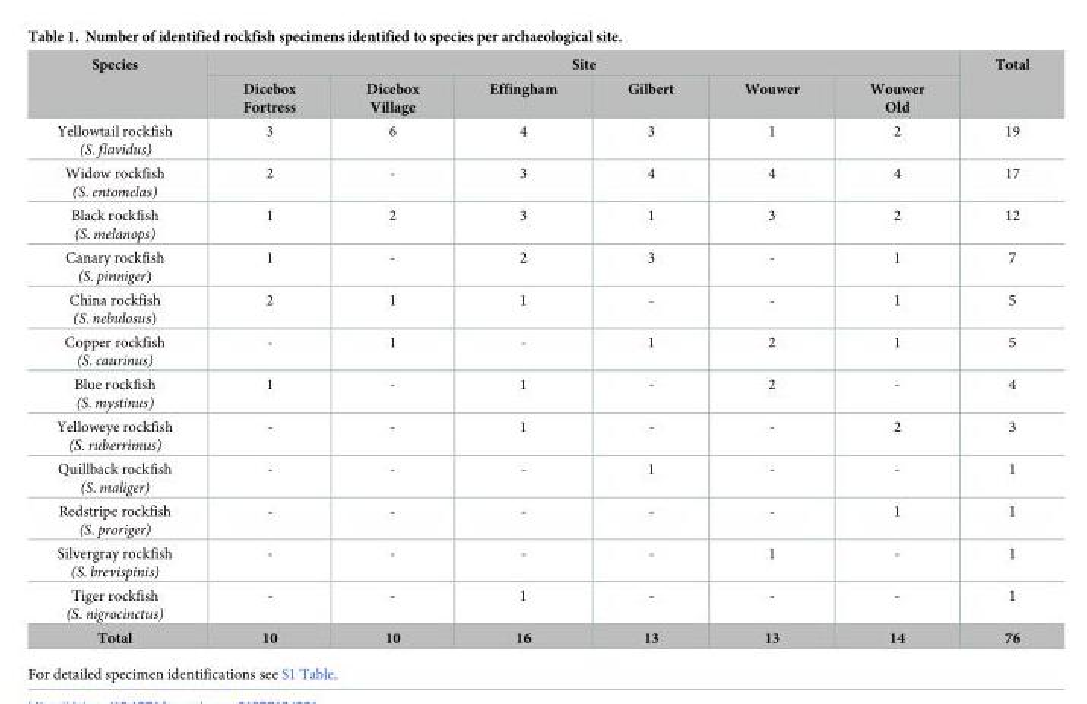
<table><thead><tr><td rowspan="2">Species</td><td colspan="6">Site</td><td rowspan="2">Total</td></tr><tr><td>Dicebox Fortress</td><td>Dicebox Village</td><td>Effingham</td><td>Gilbert</td><td>Wouwer</td><td>Wouwer Old</td></tr></thead><tbody><tr><td>Yellowtail rockfish (S. flavidus)</td><td>3</td><td>6</td><td>4</td><td>3</td><td>1</td><td>2</td><td>19</td></tr><tr><td>Widow rockfish (S. entomelas)</td><td>2</td><td>-</td><td>3</td><td>4</td><td>4</td><td>4</td><td>17</td></tr><tr><td>Black rockfish (S. melanops)</td><td>1</td><td>2</td><td>3</td><td>1</td><td>3</td><td>2</td><td>12</td></tr><tr><td>Canary rockfish (S. pinniger)</td><td>1</td><td>-</td><td>2</td><td>3</td><td>-</td><td>1</td><td>7</td></tr><tr><td>China rockfish (S. nebulosus)</td><td>2</td><td>1</td><td>1</td><td>-</td><td>-</td><td>1</td><td>5</td></tr><tr><td>Copper rockfish (S. caurinus)</td><td>-</td><td>1</td><td>-</td><td>1</td><td>2</td><td>1</td><td>5</td></tr><tr><td>Blue rockfish (S. mystinus)</td><td>1</td><td>-</td><td>1</td><td>-</td><td>2</td><td>-</td><td>4</td></tr><tr><td>Yelloweye rockfish (S. ruberrimus)</td><td>-</td><td>-</td><td>1</td><td>-</td><td>-</td><td>2</td><td>3</td></tr><tr><td>Quillback rockfish (S. maliger)</td><td>-</td><td>-</td><td>-</td><td>1</td><td>-</td><td>-</td><td>1</td></tr><tr><td>Redstripe rockfish (S. proriger)</td><td>-</td><td>-</td><td>-</td><td>-</td><td>-</td><td>1</td><td>1</td></tr><tr><td>Silvergray rockfish (S. brevispinis)</td><td>-</td><td>-</td><td>-</td><td>-</td><td>1</td><td>-</td><td>1</td></tr><tr><td>Tiger rockfish (S. nigrocinctus)</td><td>-</td><td>-</td><td>1</td><td>-</td><td>-</td><td>-</td><td>1</td></tr><tr><td>Total</td><td>10</td><td>10</td><td>16</td><td>13</td><td>13</td><td>14</td><td>76</td></tr></tbody></table>